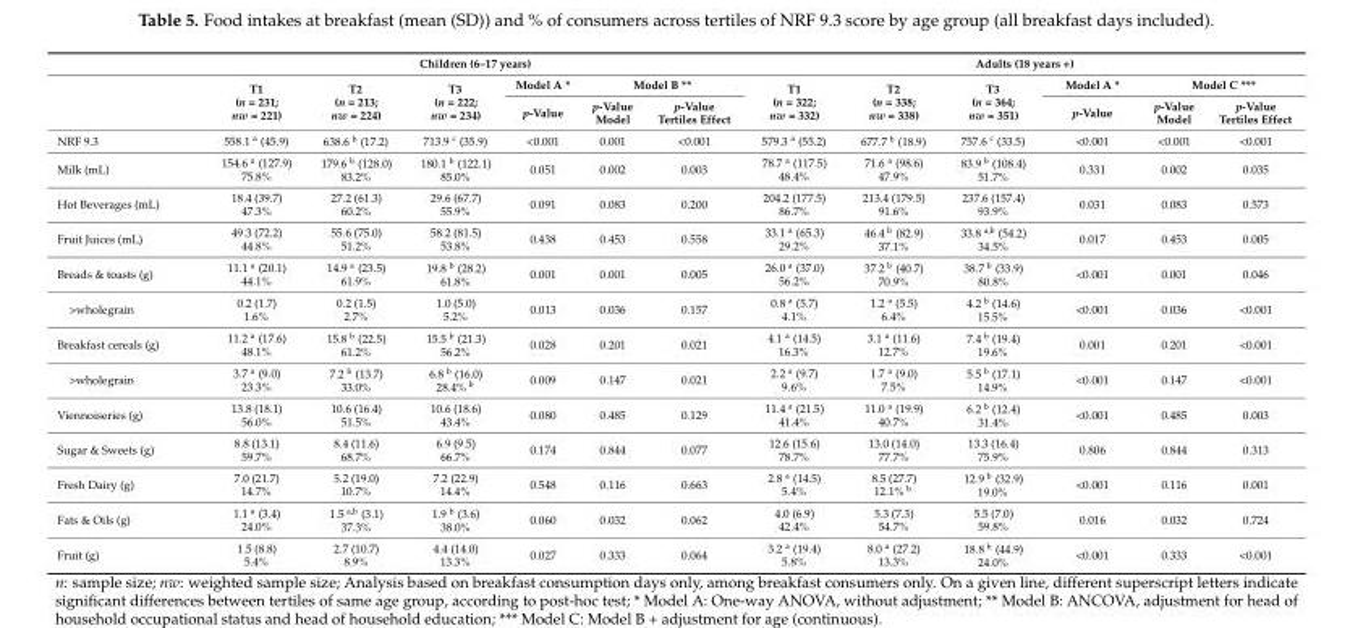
<table><thead><tr><td rowspan="3"></td><td colspan="6">Children (6–17 years)</td><td colspan="6">Adults (18 years +)</td></tr><tr><td rowspan="2">T1 (n = 231; nw = 221)</td><td rowspan="2">T2 (n = 213; nw = 224)</td><td rowspan="2">T3 (n = 222; nw = 234)</td><td rowspan="2">Model A * p-Value</td><td colspan="2">Model B **</td><td rowspan="2">T1 (n = 322; nw = 332)</td><td rowspan="2">T2 (n = 338; nw = 338)</td><td rowspan="2">T3 (n = 364; nw = 351)</td><td rowspan="2">Model A * p-Value</td><td colspan="2">Model C ***</td></tr><tr><td>p-Value Model</td><td>p-Value Tertiles Effect</td><td>p-Value Model</td><td>p-Value Tertiles Effect</td></tr></thead><tbody><tr><td>NRF 9.3</td><td>558.1 <sup>a</sup> (45.9)</td><td>638.6 <sup>b</sup> (17.2)</td><td>713.9 <sup>c</sup> (35.9)</td><td>&lt;0.001</td><td>0.001</td><td>&lt;0.001</td><td>579.3 <sup>a</sup> (55.2)</td><td>677.7 <sup>b</sup> (18.9)</td><td>757.6 <sup>c</sup> (33.5)</td><td>&lt;0.001</td><td>&lt;0.001</td><td>&lt;0.001</td></tr><tr><td>Milk (mL)</td><td>154.6 <sup>a</sup> (127.9) 75.8%</td><td>179.6 <sup>b</sup> (128.0) 83.2%</td><td>180.1 <sup>b</sup> (122.1) 85.0%</td><td>0.051</td><td>0.002</td><td>0.003</td><td>78.7 <sup>a</sup> (117.5) 48.4%</td><td>71.6 <sup>a</sup> (98.6) 47.9%</td><td>83.9 <sup>b</sup> (108.4) 51.7%</td><td>0.331</td><td>0.002</td><td>0.035</td></tr><tr><td>Hot Beverages (mL)</td><td>18.4 (39.7) 47.3%</td><td>27.2 (61.3) 60.2%</td><td>29.6 (67.7) 55.9%</td><td>0.091</td><td>0.083</td><td>0.200</td><td>204.2 (177.5) 86.7%</td><td>213.4 (179.5) 91.6%</td><td>237.6 (157.4) 93.9%</td><td>0.031</td><td>0.083</td><td>0.573</td></tr><tr><td>Fruit Juices (mL)</td><td>49.3 (72.2) 44.8%</td><td>55.6 (75.0) 51.2%</td><td>58.2 (81.5) 53.8%</td><td>0.438</td><td>0.453</td><td>0.558</td><td>33.1 <sup>a</sup> (65.3) 29.2%</td><td>46.4 <sup>b</sup> (82.9) 37.1%</td><td>33.8 <sup>a,b</sup> (54.2) 34.5%</td><td>0.017</td><td>0.453</td><td>0.005</td></tr><tr><td>Breads &amp; toasts (g)</td><td>11.1 <sup>a</sup> (20.1) 44.1%</td><td>14.9 <sup>a</sup> (23.5) 61.9%</td><td>19.8 <sup>b</sup> (28.2) 61.8%</td><td>0.001</td><td>0.001</td><td>0.005</td><td>26.0 <sup>a</sup> (37.0) 56.2%</td><td>37.2 <sup>b</sup> (40.7) 70.9%</td><td>38.7 <sup>b</sup> (33.9) 80.8%</td><td>&lt;0.001</td><td>0.001</td><td>0.046</td></tr><tr><td>&gt;wholegrain</td><td>0.2 (1.7) 1.6%</td><td>0.2 (1.5) 2.7%</td><td>1.0 (5.0) 5.2%</td><td>0.013</td><td>0.036</td><td>0.157</td><td>0.8 <sup>a</sup> (5.7) 4.1%</td><td>1.2 <sup>a</sup> (5.5) 6.4%</td><td>4.2 <sup>b</sup> (14.6) 15.5%</td><td>&lt;0.001</td><td>0.036</td><td>&lt;0.001</td></tr><tr><td>Breakfast cereals (g)</td><td>11.2 <sup>a</sup> (17.6) 48.1%</td><td>15.8 <sup>b</sup> (22.5) 61.2%</td><td>15.5 <sup>b</sup> (21.3) 56.2%</td><td>0.028</td><td>0.201</td><td>0.021</td><td>4.1 <sup>a</sup> (14.5) 16.3%</td><td>3.1 <sup>a</sup> (11.6) 12.7%</td><td>7.4 <sup>b</sup> (19.4) 19.6%</td><td>0.001</td><td>0.201</td><td>&lt;0.001</td></tr><tr><td>&gt;wholegrain</td><td>3.7 <sup>a</sup> (9.0) 23.3%</td><td>7.2 <sup>b</sup> (13.7) 33.0%</td><td>6.8 <sup>b</sup> (16.0) 28.4% <sup>b</sup></td><td>0.009</td><td>0.147</td><td>0.021</td><td>2.2 <sup>a</sup> (9.7) 9.6%</td><td>1.7 <sup>a</sup> (9.0) 7.5%</td><td>5.5 <sup>b</sup> (17.1) 14.9%</td><td>&lt;0.001</td><td>0.147</td><td>&lt;0.001</td></tr><tr><td>Viennoiseries (g)</td><td>13.8 (18.1) 56.0%</td><td>10.6 (16.4) 51.5%</td><td>10.6 (18.6) 43.4%</td><td>0.080</td><td>0.485</td><td>0.129</td><td>11.4 <sup>a</sup> (21.5) 41.4%</td><td>11.0 <sup>a</sup> (19.9) 40.7%</td><td>6.2 <sup>b</sup> (12.4) 31.4%</td><td>&lt;0.001</td><td>0.485</td><td>0.003</td></tr><tr><td>Sugar &amp; Sweets (g)</td><td>8.8 (13.1) 59.7%</td><td>8.4 (11.6) 68.7%</td><td>6.9 (9.5) 66.7%</td><td>0.174</td><td>0.844</td><td>0.077</td><td>12.6 (15.6) 78.7%</td><td>13.0 (14.0) 77.7%</td><td>13.3 (16.4) 75.9%</td><td>0.806</td><td>0.844</td><td>0.313</td></tr><tr><td>Fresh Dairy (g)</td><td>7.0 (21.7) 14.7%</td><td>5.2 (19.0) 10.7%</td><td>7.2 (22.9) 14.4%</td><td>0.548</td><td>0.116</td><td>0.663</td><td>2.8 <sup>a</sup> (14.5) 5.4%</td><td>8.5 (27.7) 12.1% <sup>b</sup></td><td>12.9 <sup>b</sup> (32.9) 19.0%</td><td>&lt;0.001</td><td>0.116</td><td>0.001</td></tr><tr><td>Fats &amp; Oils (g)</td><td>1.1 <sup>a</sup> (3.4) 24.0%</td><td>1.5 <sup>a,b</sup> (3.1) 37.3%</td><td>1.9 <sup>b</sup> (3.6) 38.0%</td><td>0.060</td><td>0.032</td><td>0.062</td><td>4.0 (6.9) 42.4%</td><td>5.3 (7.3) 54.7%</td><td>5.5 (7.0) 59.8%</td><td>0.016</td><td>0.032</td><td>0.724</td></tr><tr><td>Fruit (g)</td><td>1.5 (8.8) 5.4%</td><td>2.7 (10.7) 8.9%</td><td>4.4 (14.0) 13.3%</td><td>0.027</td><td>0.333</td><td>0.064</td><td>3.2 <sup>a</sup> (19.4) 5.8%</td><td>8.0 <sup>a</sup> (27.2) 13.3%</td><td>18.8 <sup>b</sup> (44.9) 24.0%</td><td>&lt;0.001</td><td>0.333</td><td>&lt;0.001</td></tr></tbody></table>